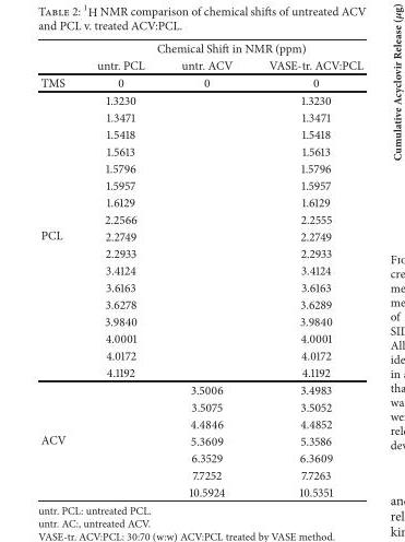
<table><thead><tr><td rowspan="2"></td><td colspan="3">Chemical Shift in NMR (ppm)</td></tr><tr><td>untr. PCL</td><td>untr. ACV</td><td>VASE-tr. ACV:PCL</td></tr></thead><tbody><tr><td>TMS</td><td>0</td><td>0</td><td>0</td></tr><tr><td rowspan="17">PCL</td><td>1.3230</td><td></td><td>1.3230</td></tr><tr><td>1.3471</td><td></td><td>1.3471</td></tr><tr><td>1.5418</td><td></td><td>1.5418</td></tr><tr><td>1.5613</td><td></td><td>1.5613</td></tr><tr><td>1.5796</td><td></td><td>1.5796</td></tr><tr><td>1.5957</td><td></td><td>1.5957</td></tr><tr><td>1.6129</td><td></td><td>1.6129</td></tr><tr><td>2.2566</td><td></td><td>2.2555</td></tr><tr><td>2.2749</td><td></td><td>2.2749</td></tr><tr><td>2.2933</td><td></td><td>2.2933</td></tr><tr><td>3.4124</td><td></td><td>3.4124</td></tr><tr><td>3.6163</td><td></td><td>3.6163</td></tr><tr><td>3.6278</td><td></td><td>3.6289</td></tr><tr><td>3.9840</td><td></td><td>3.9840</td></tr><tr><td>4.0001</td><td></td><td>4.0001</td></tr><tr><td>4.0172</td><td></td><td>4.0172</td></tr><tr><td>4.1192</td><td></td><td>4.1192</td></tr><tr><td rowspan="7">ACV</td><td></td><td>3.5006</td><td>3.4983</td></tr><tr><td></td><td>3.5075</td><td>3.5052</td></tr><tr><td></td><td>4.4846</td><td>4.4852</td></tr><tr><td></td><td>5.3609</td><td>5.3586</td></tr><tr><td></td><td>6.3529</td><td>6.3609</td></tr><tr><td></td><td>7.7252</td><td>7.7263</td></tr><tr><td></td><td>10.5924</td><td>10.5351</td></tr></tbody></table>